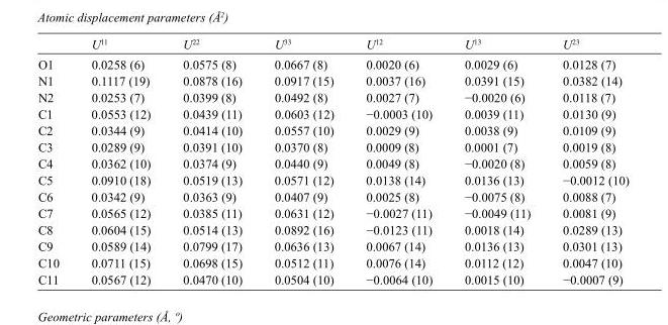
<table><thead><tr><td></td><td>U<sup>11</sup></td><td>U<sup>22</sup></td><td>U<sup>33</sup></td><td>U<sup>12</sup></td><td>U<sup>13</sup></td><td>U<sup>23</sup></td></tr></thead><tbody><tr><td>O1</td><td>0.0258 (6)</td><td>0.0575 (8)</td><td>0.0667 (8)</td><td>0.0020 (6)</td><td>0.0029 (6)</td><td>0.0128 (7)</td></tr><tr><td>N1</td><td>0.1117 (19)</td><td>0.0878 (16)</td><td>0.0917 (15)</td><td>0.0037 (16)</td><td>0.0391 (15)</td><td>0.0382 (14)</td></tr><tr><td>N2</td><td>0.0253 (7)</td><td>0.0399 (8)</td><td>0.0492 (8)</td><td>0.0027 (7)</td><td>−0.0020 (6)</td><td>0.0118 (7)</td></tr><tr><td>C1</td><td>0.0553 (12)</td><td>0.0439 (11)</td><td>0.0603 (12)</td><td>−0.0003 (10)</td><td>0.0039 (11)</td><td>0.0130 (9)</td></tr><tr><td>C2</td><td>0.0344 (9)</td><td>0.0414 (10)</td><td>0.0557 (10)</td><td>0.0029 (9)</td><td>0.0038 (9)</td><td>0.0109 (9)</td></tr><tr><td>C3</td><td>0.0289 (9)</td><td>0.0391 (10)</td><td>0.0370 (8)</td><td>0.0009 (8)</td><td>0.0001 (7)</td><td>0.0019 (8)</td></tr><tr><td>C4</td><td>0.0362 (10)</td><td>0.0374 (9)</td><td>0.0440 (9)</td><td>0.0049 (8)</td><td>−0.0020 (8)</td><td>0.0059 (8)</td></tr><tr><td>C5</td><td>0.0910 (18)</td><td>0.0519 (13)</td><td>0.0571 (12)</td><td>0.0138 (14)</td><td>0.0136 (13)</td><td>−0.0012 (10)</td></tr><tr><td>C6</td><td>0.0342 (9)</td><td>0.0363 (9)</td><td>0.0407 (9)</td><td>0.0025 (8)</td><td>−0.0075 (8)</td><td>0.0088 (7)</td></tr><tr><td>C7</td><td>0.0565 (12)</td><td>0.0385 (11)</td><td>0.0631 (12)</td><td>−0.0027 (11)</td><td>−0.0049 (11)</td><td>0.0081 (9)</td></tr><tr><td>C8</td><td>0.0604 (15)</td><td>0.0514 (13)</td><td>0.0892 (16)</td><td>−0.0123 (11)</td><td>0.0018 (14)</td><td>0.0289 (13)</td></tr><tr><td>C9</td><td>0.0589 (14)</td><td>0.0799 (17)</td><td>0.0636 (13)</td><td>0.0067 (14)</td><td>0.0136 (13)</td><td>0.0301 (13)</td></tr><tr><td>C10</td><td>0.0711 (15)</td><td>0.0698 (15)</td><td>0.0512 (11)</td><td>0.0076 (14)</td><td>0.0112 (12)</td><td>0.0047 (10)</td></tr><tr><td>C11</td><td>0.0567 (12)</td><td>0.0470 (10)</td><td>0.0504 (10)</td><td>−0.0064 (10)</td><td>0.0015 (10)</td><td>−0.0007 (9)</td></tr></tbody></table>